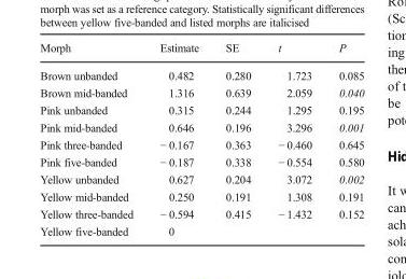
<table><thead><tr><td>Morph</td><td>Estimate</td><td>SE</td><td>t</td><td>P</td></tr></thead><tbody><tr><td>Brown unbanded</td><td>0.482</td><td>0.280</td><td>1.723</td><td>0.085</td></tr><tr><td>Brown mid-banded</td><td>1.316</td><td>0.639</td><td>2.059</td><td>0.040</td></tr><tr><td>Pink unbanded</td><td>0.315</td><td>0.244</td><td>1.295</td><td>0.195</td></tr><tr><td>Pink mid-banded</td><td>0.646</td><td>0.196</td><td>3.296</td><td>0.001</td></tr><tr><td>Pink three-banded</td><td>− 0.167</td><td>0.363</td><td>− 0.460</td><td>0.645</td></tr><tr><td>Pink five-banded</td><td>− 0.187</td><td>0.338</td><td>− 0.554</td><td>0.580</td></tr><tr><td>Yellow unbanded</td><td>0.627</td><td>0.204</td><td>3.072</td><td>0.002</td></tr><tr><td>Yellow mid-banded</td><td>0.250</td><td>0.191</td><td>1.308</td><td>0.191</td></tr><tr><td>Yellow three-banded</td><td>− 0.594</td><td>0.415</td><td>− 1.432</td><td>0.152</td></tr><tr><td>Yellow five-banded</td><td>0</td><td></td><td></td><td></td></tr></tbody></table>